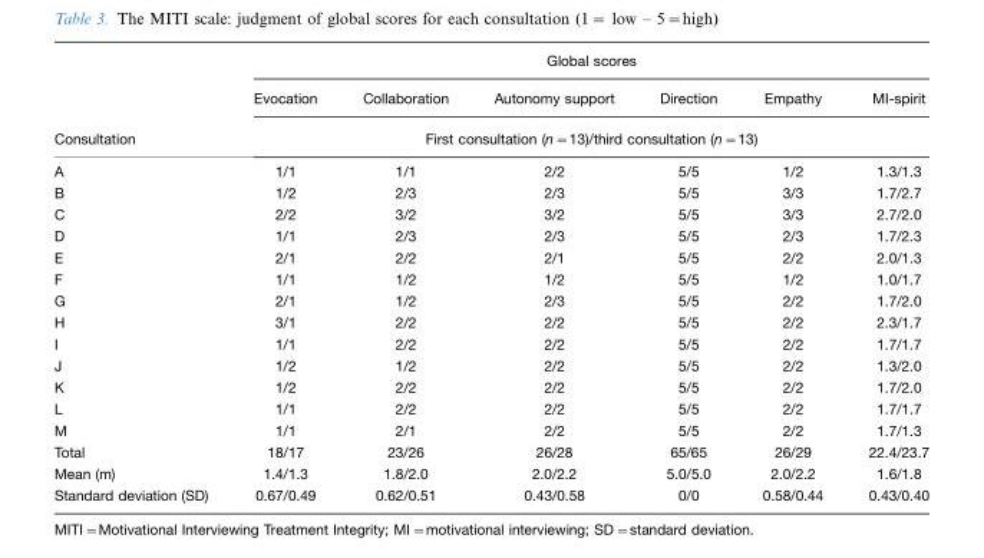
<table><thead><tr><td rowspan="3">Consultation</td><td colspan="6">Global scores</td></tr><tr><td>Evocation</td><td>Collaboration</td><td>Autonomy support</td><td>Direction</td><td>Empathy</td><td>MI-spirit</td></tr><tr><td colspan="6">First consultation (n=13)/third consultation (n=13)</td></tr></thead><tbody><tr><td>A</td><td>1/1</td><td>1/1</td><td>2/2</td><td>5/5</td><td>1/2</td><td>1.3/1.3</td></tr><tr><td>B</td><td>1/2</td><td>2/3</td><td>2/3</td><td>5/5</td><td>3/3</td><td>1.7/2.7</td></tr><tr><td>C</td><td>2/2</td><td>3/2</td><td>3/2</td><td>5/5</td><td>3/3</td><td>2.7/2.0</td></tr><tr><td>D</td><td>1/1</td><td>2/3</td><td>2/3</td><td>5/5</td><td>2/3</td><td>1.7/2.3</td></tr><tr><td>E</td><td>2/1</td><td>2/2</td><td>2/1</td><td>5/5</td><td>2/2</td><td>2.0/1.3</td></tr><tr><td>F</td><td>1/1</td><td>1/2</td><td>1/2</td><td>5/5</td><td>1/2</td><td>1.0/1.7</td></tr><tr><td>G</td><td>2/1</td><td>1/2</td><td>2/3</td><td>5/5</td><td>2/2</td><td>1.7/2.0</td></tr><tr><td>H</td><td>3/1</td><td>2/2</td><td>2/2</td><td>5/5</td><td>2/2</td><td>2.3/1.7</td></tr><tr><td>I</td><td>1/1</td><td>2/2</td><td>2/2</td><td>5/5</td><td>2/2</td><td>1.7/1.7</td></tr><tr><td>J</td><td>1/2</td><td>1/2</td><td>2/2</td><td>5/5</td><td>2/2</td><td>1.3/2.0</td></tr><tr><td>K</td><td>1/2</td><td>2/2</td><td>2/2</td><td>5/5</td><td>2/2</td><td>1.7/2.0</td></tr><tr><td>L</td><td>1/1</td><td>2/2</td><td>2/2</td><td>5/5</td><td>2/2</td><td>1.7/1.7</td></tr><tr><td>M</td><td>1/1</td><td>2/1</td><td>2/2</td><td>5/5</td><td>2/2</td><td>1.7/1.3</td></tr><tr><td>Total</td><td>18/17</td><td>23/26</td><td>26/28</td><td>65/65</td><td>26/29</td><td>22.4/23.7</td></tr><tr><td>Mean (m)</td><td>1.4/1.3</td><td>1.8/2.0</td><td>2.0/2.2</td><td>5.0/5.0</td><td>2.0/2.2</td><td>1.6/1.8</td></tr><tr><td>Standard deviation (SD)</td><td>0.67/0.49</td><td>0.62/0.51</td><td>0.43/0.58</td><td>0/0</td><td>0.58/0.44</td><td>0.43/0.40</td></tr></tbody></table>